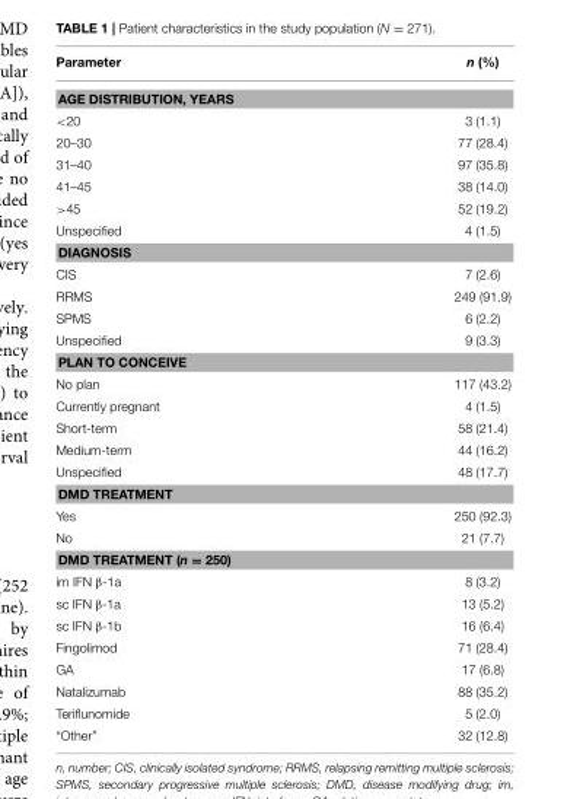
<table><thead><tr><td>Parameter</td><td>n (%)</td></tr></thead><tbody><tr><td colspan="2">AGE DISTRIBUTION, YEARS</td></tr><tr><td>&lt;20</td><td>3 (1.1)</td></tr><tr><td>20–30</td><td>77 (28.4)</td></tr><tr><td>31–40</td><td>97 (35.8)</td></tr><tr><td>41–45</td><td>38 (14.0)</td></tr><tr><td>&gt;45</td><td>52 (19.2)</td></tr><tr><td>Unspecified</td><td>4 (1.5)</td></tr><tr><td colspan="2">DIAGNOSIS</td></tr><tr><td>CIS</td><td>7 (2.6)</td></tr><tr><td>RRMS</td><td>249 (91.9)</td></tr><tr><td>SPMS</td><td>6 (2.2)</td></tr><tr><td>Unspecified</td><td>9 (3.3)</td></tr><tr><td colspan="2">PLAN TO CONCEIVE</td></tr><tr><td>No plan</td><td>117 (43.2)</td></tr><tr><td>Currently pregnant</td><td>4 (1.5)</td></tr><tr><td>Short-term</td><td>58 (21.4)</td></tr><tr><td>Medium-term</td><td>44 (16.2)</td></tr><tr><td>Unspecified</td><td>48 (17.7)</td></tr><tr><td colspan="2">DMD TREATMENT</td></tr><tr><td>Yes</td><td>250 (92.3)</td></tr><tr><td>No</td><td>21 (7.7)</td></tr><tr><td colspan="2">DMD TREATMENT (n = 250)</td></tr><tr><td>im IFN β-1a</td><td>8 (3.2)</td></tr><tr><td>sc IFN β-1a</td><td>13 (5.2)</td></tr><tr><td>sc IFN β-1b</td><td>16 (6.4)</td></tr><tr><td>Fingolimod</td><td>71 (28.4)</td></tr><tr><td>GA</td><td>17 (6.8)</td></tr><tr><td>Natalizumab</td><td>88 (35.2)</td></tr><tr><td>Teriflunomide</td><td>5 (2.0)</td></tr><tr><td>“Other”</td><td>32 (12.8)</td></tr></tbody></table>